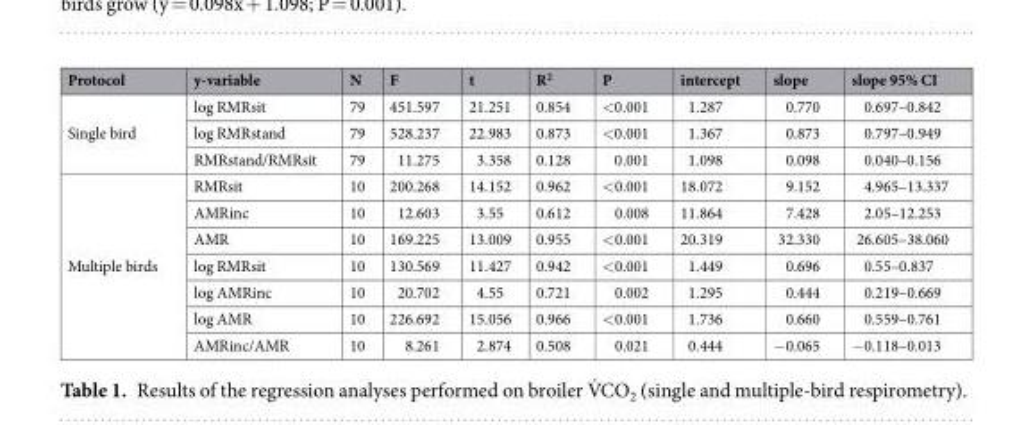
<table><thead><tr><td>Protocol</td><td>y-variable</td><td>N</td><td>F</td><td>t</td><td>R<sup>2</sup></td><td>P</td><td>intercept</td><td>slope</td><td>slope 95% CI</td></tr></thead><tbody><tr><td rowspan="3">Single bird</td><td>log RMRsit</td><td>79</td><td>451.597</td><td>21.251</td><td>0.854</td><td>&lt;0.001</td><td>1.287</td><td>0.770</td><td>0.697–0.842</td></tr><tr><td>log RMRstand</td><td>79</td><td>528.237</td><td>22.983</td><td>0.873</td><td>&lt;0.001</td><td>1.367</td><td>0.873</td><td>0.797–0.949</td></tr><tr><td>RMRstand/RMRsit</td><td>79</td><td>11.275</td><td>3.358</td><td>0.128</td><td>0.001</td><td>1.098</td><td>0.098</td><td>0.040–0.156</td></tr><tr><td rowspan="7">Multiple birds</td><td>RMRsit</td><td>10</td><td>200.268</td><td>14.152</td><td>0.962</td><td>&lt;0.001</td><td>18.072</td><td>9.152</td><td>4.965–13.337</td></tr><tr><td>AMRinc</td><td>10</td><td>12.603</td><td>3.55</td><td>0.612</td><td>0.008</td><td>11.864</td><td>7.428</td><td>2.05–12.253</td></tr><tr><td>AMR</td><td>10</td><td>169.225</td><td>13.009</td><td>0.955</td><td>&lt;0.001</td><td>20.319</td><td>32.330</td><td>26.605–38.060</td></tr><tr><td>log RMRsit</td><td>10</td><td>130.569</td><td>11.427</td><td>0.942</td><td>&lt;0.001</td><td>1.449</td><td>0.696</td><td>0.55–0.837</td></tr><tr><td>log AMRinc</td><td>10</td><td>20.702</td><td>4.55</td><td>0.721</td><td>0.002</td><td>1.295</td><td>0.444</td><td>0.219–0.669</td></tr><tr><td>log AMR</td><td>10</td><td>226.692</td><td>15.056</td><td>0.966</td><td>&lt;0.001</td><td>1.736</td><td>0.660</td><td>0.559–0.761</td></tr><tr><td>AMRinc/AMR</td><td>10</td><td>8.261</td><td>2.874</td><td>0.508</td><td>0.021</td><td>0.444</td><td>−0.065</td><td>−0.118–0.013</td></tr></tbody></table>